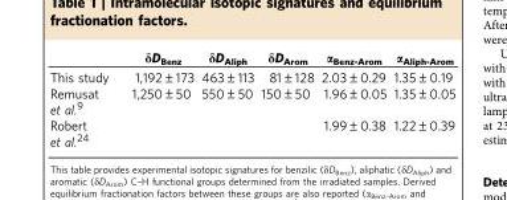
<table><thead><tr><td></td><td>δD<sub>Benz</sub></td><td>δD<sub>Aliph</sub></td><td>δD<sub>Arom</sub></td><td>α<sub>Benz-Arom</sub></td><td>α<sub>Aliph-Arom</sub></td></tr></thead><tbody><tr><td>This study</td><td>1,192±173</td><td>463±113</td><td>81±128</td><td>2.03±0.29</td><td>1.35±0.19</td></tr><tr><td>Remusat et al.<sup>9</sup></td><td>1,250±50</td><td>550±50</td><td>150±50</td><td>1.96±0.05</td><td>1.35±0.05</td></tr><tr><td>Robert et al.<sup>24</sup></td><td></td><td></td><td></td><td>1.99±0.38</td><td>1.22±0.39</td></tr></tbody></table>